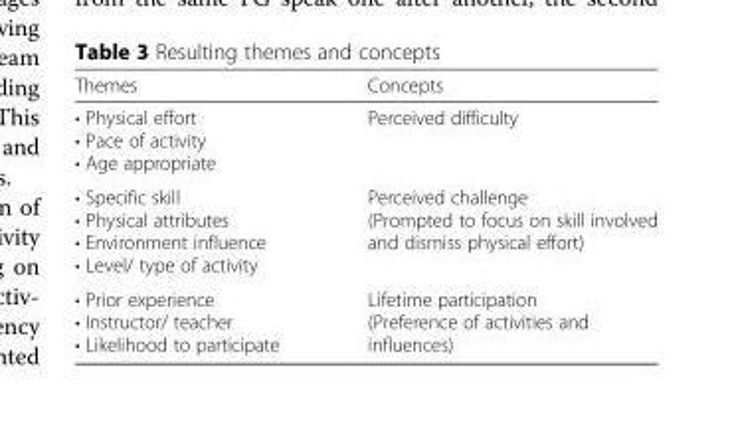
<table><thead><tr><td>Themes</td><td>Concepts</td></tr></thead><tbody><tr><td>• Physical effort • Pace of activity • Age appropriate</td><td>Perceived difficulty</td></tr><tr><td>• Specific skill • Physical attributes • Environment influence • Level/ type of activity</td><td>Perceived challenge (Prompted to focus on skill involved and dismiss physical effort)</td></tr><tr><td>• Prior experience • Instructor/ teacher • Likelihood to participate</td><td>Lifetime participation (Preference of activities and influences)</td></tr></tbody></table>